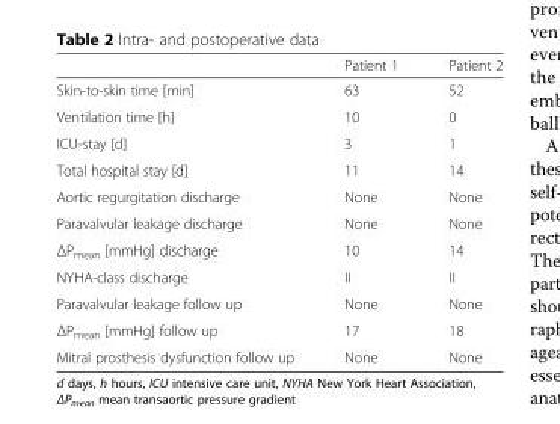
<table><thead><tr><td></td><td>Patient 1</td><td>Patient 2</td></tr></thead><tbody><tr><td>Skin-to-skin time [min]</td><td>63</td><td>52</td></tr><tr><td>Ventilation time [h]</td><td>10</td><td>0</td></tr><tr><td>ICU-stay [d]</td><td>3</td><td>1</td></tr><tr><td>Total hospital stay [d]</td><td>11</td><td>14</td></tr><tr><td>Aortic regurgitation discharge</td><td>None</td><td>None</td></tr><tr><td>Paravalvular leakage discharge</td><td>None</td><td>None</td></tr><tr><td>ΔP<sub>mean</sub> [mmHg] discharge</td><td>10</td><td>14</td></tr><tr><td>NYHA-class discharge</td><td>II</td><td>II</td></tr><tr><td>Paravalvular leakage follow up</td><td>None</td><td>None</td></tr><tr><td>ΔP<sub>mean</sub> [mmHg] follow up</td><td>17</td><td>18</td></tr><tr><td>Mitral prosthesis dysfunction follow up</td><td>None</td><td>None</td></tr></tbody></table>